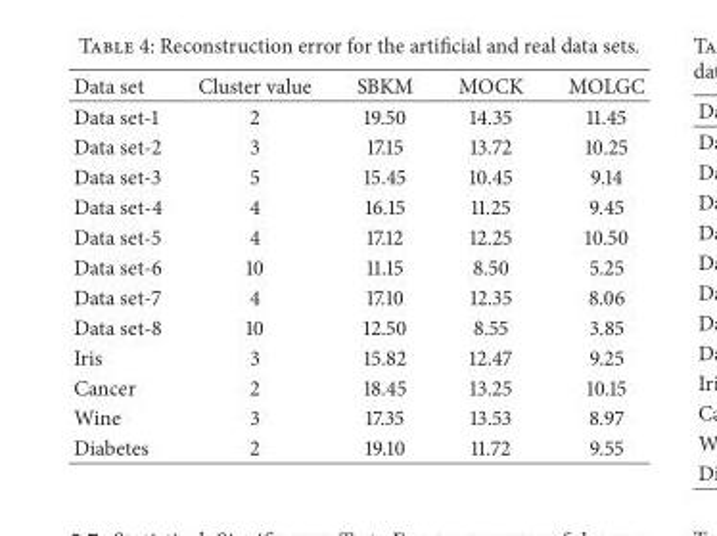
<table><thead><tr><td>Data set</td><td>Cluster value</td><td>SBKM</td><td>MOCK</td><td>MOLGC</td></tr></thead><tbody><tr><td>Data set-1</td><td>2</td><td>19.50</td><td>14.35</td><td>11.45</td></tr><tr><td>Data set-2</td><td>3</td><td>17.15</td><td>13.72</td><td>10.25</td></tr><tr><td>Data set-3</td><td>5</td><td>15.45</td><td>10.45</td><td>9.14</td></tr><tr><td>Data set-4</td><td>4</td><td>16.15</td><td>11.25</td><td>9.45</td></tr><tr><td>Data set-5</td><td>4</td><td>17.12</td><td>12.25</td><td>10.50</td></tr><tr><td>Data set-6</td><td>10</td><td>11.15</td><td>8.50</td><td>5.25</td></tr><tr><td>Data set-7</td><td>4</td><td>17.10</td><td>12.35</td><td>8.06</td></tr><tr><td>Data set-8</td><td>10</td><td>12.50</td><td>8.55</td><td>3.85</td></tr><tr><td>Iris</td><td>3</td><td>15.82</td><td>12.47</td><td>9.25</td></tr><tr><td>Cancer</td><td>2</td><td>18.45</td><td>13.25</td><td>10.15</td></tr><tr><td>Wine</td><td>3</td><td>17.35</td><td>13.53</td><td>8.97</td></tr><tr><td>Diabetes</td><td>2</td><td>19.10</td><td>11.72</td><td>9.55</td></tr></tbody></table>